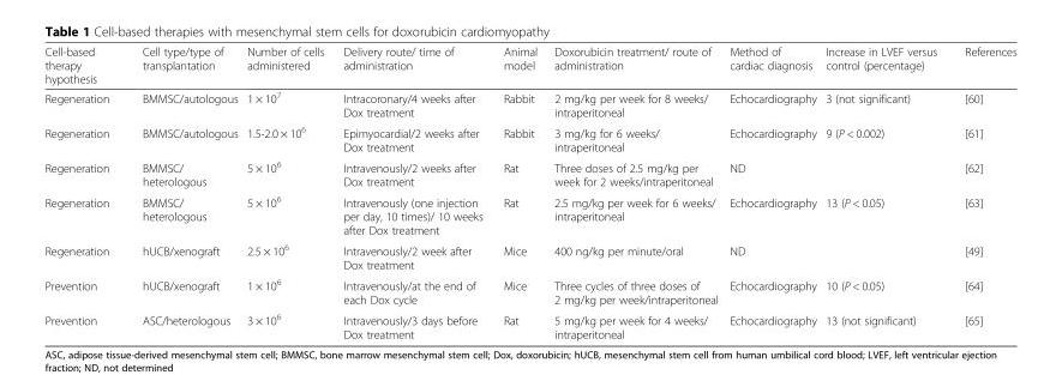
<table><thead><tr><td>Cell-based therapy hypothesis</td><td>Cell type/type of transplantation</td><td>Number of cells administered</td><td>Delivery route/ time of administration</td><td>Animal model</td><td>Doxorubicin treatment/ route of administration</td><td>Method of cardiac diagnosis</td><td>Increase in LVEF versus control (percentage)</td><td>References</td></tr></thead><tbody><tr><td>Regeneration</td><td>BMMSC/autologous</td><td>1 × 10<sup>7</sup></td><td>Intracoronary/4 weeks after Dox treatment</td><td>Rabbit</td><td>2 mg/kg per week for 8 weeks/ intraperitoneal</td><td>Echocardiography</td><td>3 (not significant)</td><td>[60]</td></tr><tr><td>Regeneration</td><td>BMMSC/autologous</td><td>1.5-2.0 × 10<sup>6</sup></td><td>Epimyocardial/2 weeks after Dox treatment</td><td>Rabbit</td><td>3 mg/kg for 6 weeks/ intraperitoneal</td><td>Echocardiography</td><td>9 (P &lt; 0.002)</td><td>[61]</td></tr><tr><td>Regeneration</td><td>BMMSC/ heterologous</td><td>5 × 10<sup>6</sup></td><td>Intravenously/2 weeks after Dox treatment</td><td>Rat</td><td>Three doses of 2.5 mg/kg per week for 2 weeks/intraperitoneal</td><td>ND</td><td></td><td>[62]</td></tr><tr><td>Regeneration</td><td>BMMSC/ heterologous</td><td>5 × 10<sup>6</sup></td><td>Intravenously (one injection per day, 10 times)/ 10 weeks after Dox treatment</td><td>Rat</td><td>2.5 mg/kg per week for 6 weeks/ intraperitoneal</td><td>Echocardiography</td><td>13 (P &lt; 0.05)</td><td>[63]</td></tr><tr><td>Regeneration</td><td>hUCB/xenograft</td><td>2.5 × 10<sup>6</sup></td><td>Intravenously/2 week after Dox treatment</td><td>Mice</td><td>400 ng/kg per minute/oral</td><td>ND</td><td></td><td>[49]</td></tr><tr><td>Prevention</td><td>hUCB/xenograft</td><td>1 × 10<sup>6</sup></td><td>Intravenously/at the end of each Dox cycle</td><td>Mice</td><td>Three cycles of three doses of 2 mg/kg per week/intraperitoneal</td><td>Echocardiography</td><td>10 (P &lt; 0.05)</td><td>[64]</td></tr><tr><td>Prevention</td><td>ASC/heterologous</td><td>3 × 10<sup>6</sup></td><td>Intravenously/3 days before Dox treatment</td><td>Rat</td><td>5 mg/kg per week for 4 weeks/ intraperitoneal</td><td>Echocardiography</td><td>13 (not significant)</td><td>[65]</td></tr></tbody></table>